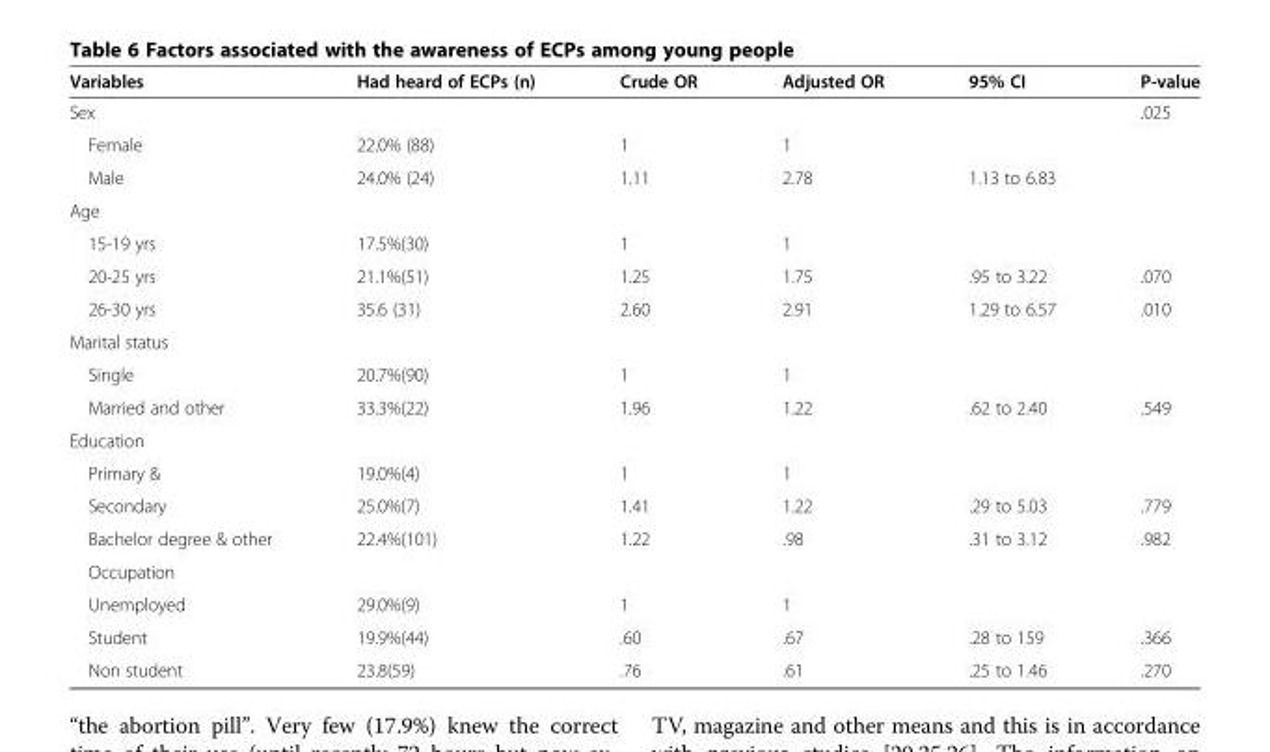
<table><thead><tr><td>Variables</td><td>Had heard of ECPs (n)</td><td>Crude OR</td><td>Adjusted OR</td><td>95% CI</td><td>P-value</td></tr></thead><tbody><tr><td>Sex</td><td></td><td></td><td></td><td></td><td>.025</td></tr><tr><td>Female</td><td>22.0% (88)</td><td>1</td><td>1</td><td></td><td></td></tr><tr><td>Male</td><td>24.0% (24)</td><td>1.11</td><td>2.78</td><td>1.13 to 6.83</td><td></td></tr><tr><td colspan="6">Age</td></tr><tr><td>15-19 yrs</td><td>17.5%(30)</td><td>1</td><td>1</td><td></td><td></td></tr><tr><td>20-25 yrs</td><td>21.1%(51)</td><td>1.25</td><td>1.75</td><td>.95 to 3.22</td><td>.070</td></tr><tr><td>26-30 yrs</td><td>35.6 (31)</td><td>2.60</td><td>2.91</td><td>1.29 to 6.57</td><td>.010</td></tr><tr><td colspan="6">Marital status</td></tr><tr><td>Single</td><td>20.7%(90)</td><td>1</td><td>1</td><td></td><td></td></tr><tr><td>Married and other</td><td>33.3%(22)</td><td>1.96</td><td>1.22</td><td>.62 to 2.40</td><td>.549</td></tr><tr><td colspan="6">Education</td></tr><tr><td>Primary &amp;</td><td>19.0%(4)</td><td>1</td><td>1</td><td></td><td></td></tr><tr><td>Secondary</td><td>25.0%(7)</td><td>1.41</td><td>1.22</td><td>.29 to 5.03</td><td>.779</td></tr><tr><td>Bachelor degree &amp; other</td><td>22.4%(101)</td><td>1.22</td><td>.98</td><td>.31 to 3.12</td><td>.982</td></tr><tr><td colspan="6">Occupation</td></tr><tr><td>Unemployed</td><td>29.0%(9)</td><td>1</td><td>1</td><td></td><td></td></tr><tr><td>Student</td><td>19.9%(44)</td><td>.60</td><td>.67</td><td>.28 to 159</td><td>.366</td></tr><tr><td>Non student</td><td>23.8(59)</td><td>.76</td><td>.61</td><td>.25 to 1.46</td><td>.270</td></tr></tbody></table>